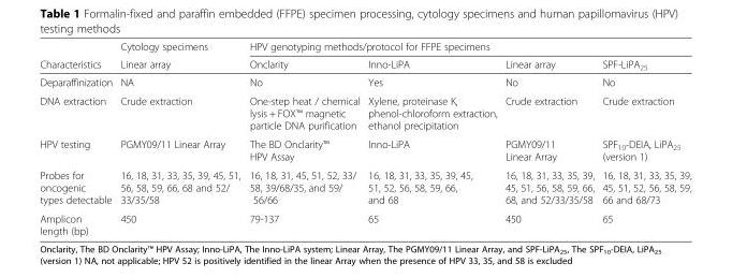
<table><thead><tr><td rowspan="2">Characteristics</td><td rowspan="2">Cytology specimens Linear array</td><td colspan="4">HPV genotyping methods/protocol for FFPE specimens</td></tr><tr><td>Onclarity</td><td>Inno-LiPA</td><td>Linear array</td><td>SPF-LiPA<sub>25</sub></td></tr></thead><tbody><tr><td>Deparaffinization</td><td>NA</td><td>No</td><td>Yes</td><td>No</td><td>No</td></tr><tr><td>DNA extraction</td><td>Crude extraction</td><td>One-step heat / chemical lysis + FOX™ magnetic particle DNA purification</td><td>Xylene, proteinase K, phenol-chloroform extraction, ethanol precipitation</td><td>Crude extraction</td><td>Crude extraction</td></tr><tr><td>HPV testing</td><td>PGMY09/11 Linear Array</td><td>The BD Onclarity™ HPV Assay</td><td>Inno-LiPA</td><td>PGMY09/11 Linear Array</td><td>SPF<sub>10</sub>-DEIA, LiPA<sub>25</sub> (version 1)</td></tr><tr><td>Probes for oncogenic types detectable</td><td>16, 18, 31, 33, 35, 39, 45, 51, 56, 58, 59, 66, 68 and 52/ 33/35/58</td><td>16, 18, 31, 45, 51, 52, 33/ 58, 39/68/35, and 59/ 56/66</td><td>16, 18, 31, 33, 35, 39, 45, 51, 52, 56, 58, 59, 66, and 68</td><td>16, 18, 31, 33, 35, 39, 45, 51, 56, 58, 59, 66, 68, and 52/33/35/58</td><td>16, 18, 31, 33, 35, 39, 45, 51, 52, 56, 58, 59, 66 and 68/73</td></tr><tr><td>Amplicon length (bp)</td><td>450</td><td>79-137</td><td>65</td><td>450</td><td>65</td></tr></tbody></table>